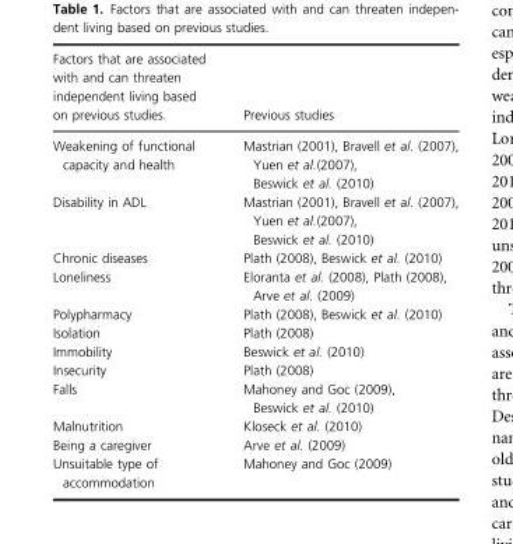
<table><thead><tr><td>Factors that are associated with and can threaten independent living based on previous studies.</td><td>Previous studies</td></tr></thead><tbody><tr><td>Weakening of functional capacity and health</td><td>Mastrian (2001), Bravell et al. (2007), Yuen et al.(2007), Beswick et al. (2010)</td></tr><tr><td>Disability in ADL</td><td>Mastrian (2001), Bravell et al. (2007), Yuen et al.(2007), Beswick et al. (2010)</td></tr><tr><td>Chronic diseases</td><td>Plath (2008), Beswick et al. (2010)</td></tr><tr><td>Loneliness</td><td>Eloranta et al. (2008), Plath (2008), Arve et al. (2009)</td></tr><tr><td>Polypharmacy</td><td>Plath (2008), Beswick et al. (2010)</td></tr><tr><td>Isolation</td><td>Plath (2008)</td></tr><tr><td>Immobility</td><td>Beswick et al. (2010)</td></tr><tr><td>Insecurity</td><td>Plath (2008)</td></tr><tr><td>Falls</td><td>Mahoney and Goc (2009), Beswick et al. (2010)</td></tr><tr><td>Malnutrition</td><td>Kloseck et al. (2010)</td></tr><tr><td>Being a caregiver</td><td>Arve et al. (2009)</td></tr><tr><td>Unsuitable type of accommodation</td><td>Mahoney and Goc (2009)</td></tr></tbody></table>